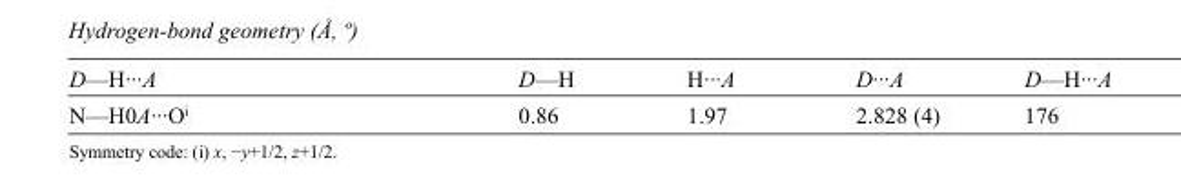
<table><tbody><tr><td>D—H···A</td><td>D—H</td><td>H···A</td><td>D···A</td><td>D—H···A</td></tr><tr><td>N—H0A···O<sup>i</sup></td><td>0.86</td><td>1.97</td><td>2.828 (4)</td><td>176</td></tr></tbody></table>